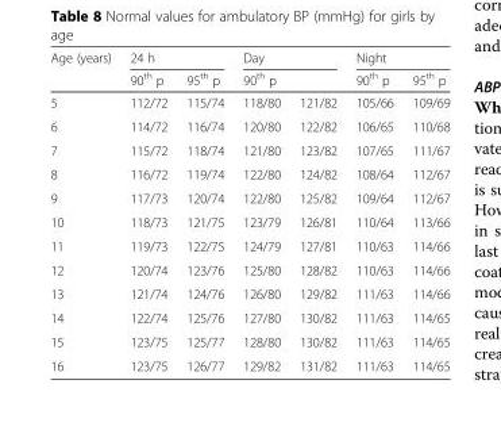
<table><thead><tr><td rowspan="2">Age (years)</td><td colspan="2">24 h</td><td colspan="2">Day</td><td colspan="2">Night</td></tr><tr><td>90<sup>th</sup> p</td><td>95<sup>th</sup> p</td><td>90<sup>th</sup> p</td><td></td><td>90<sup>th</sup> p</td><td>95<sup>th</sup> p</td></tr></thead><tbody><tr><td>5</td><td>112/72</td><td>115/74</td><td>118/80</td><td>121/82</td><td>105/66</td><td>109/69</td></tr><tr><td>6</td><td>114/72</td><td>116/74</td><td>120/80</td><td>122/82</td><td>106/65</td><td>110/68</td></tr><tr><td>7</td><td>115/72</td><td>118/74</td><td>121/80</td><td>123/82</td><td>107/65</td><td>111/67</td></tr><tr><td>8</td><td>116/72</td><td>119/74</td><td>122/80</td><td>124/82</td><td>108/64</td><td>112/67</td></tr><tr><td>9</td><td>117/73</td><td>120/74</td><td>122/80</td><td>125/82</td><td>109/64</td><td>112/67</td></tr><tr><td>10</td><td>118/73</td><td>121/75</td><td>123/79</td><td>126/81</td><td>110/64</td><td>113/66</td></tr><tr><td>11</td><td>119/73</td><td>122/75</td><td>124/79</td><td>127/81</td><td>110/63</td><td>114/66</td></tr><tr><td>12</td><td>120/74</td><td>123/76</td><td>125/80</td><td>128/82</td><td>110/63</td><td>114/66</td></tr><tr><td>13</td><td>121/74</td><td>124/76</td><td>126/80</td><td>129/82</td><td>111/63</td><td>114/66</td></tr><tr><td>14</td><td>122/74</td><td>125/76</td><td>127/80</td><td>130/82</td><td>111/63</td><td>114/65</td></tr><tr><td>15</td><td>123/75</td><td>125/77</td><td>128/80</td><td>130/82</td><td>111/63</td><td>114/65</td></tr><tr><td>16</td><td>123/75</td><td>126/77</td><td>129/82</td><td>131/82</td><td>111/63</td><td>114/65</td></tr></tbody></table>